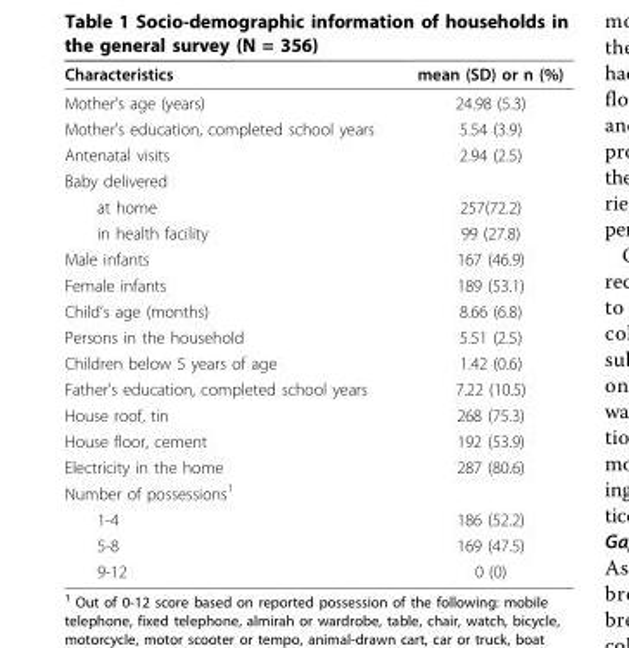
<table><thead><tr><td>Characteristics</td><td>mean (SD) or n (%)</td></tr></thead><tbody><tr><td>Mother’s age (years)</td><td>24.98 (5.3)</td></tr><tr><td>Mother’s education, completed school years</td><td>5.54 (3.9)</td></tr><tr><td>Antenatal visits</td><td>2.94 (2.5)</td></tr><tr><td colspan="2">Baby delivered</td></tr><tr><td>at home</td><td>257(72.2)</td></tr><tr><td>in health facility</td><td>99 (27.8)</td></tr><tr><td>Male infants</td><td>167 (46.9)</td></tr><tr><td>Female infants</td><td>189 (53.1)</td></tr><tr><td>Child’s age (months)</td><td>8.66 (6.8)</td></tr><tr><td>Persons in the household</td><td>5.51 (2.5)</td></tr><tr><td>Children below 5 years of age</td><td>1.42 (0.6)</td></tr><tr><td>Father’s education, completed school years</td><td>7.22 (10.5)</td></tr><tr><td>House roof, tin</td><td>268 (75.3)</td></tr><tr><td>House floor, cement</td><td>192 (53.9)</td></tr><tr><td>Electricity in the home</td><td>287 (80.6)</td></tr><tr><td colspan="2">Number of possessions<sup>1</sup></td></tr><tr><td>1-4</td><td>186 (52.2)</td></tr><tr><td>5-8</td><td>169 (47.5)</td></tr><tr><td>9-12</td><td>0 (0)</td></tr></tbody></table>